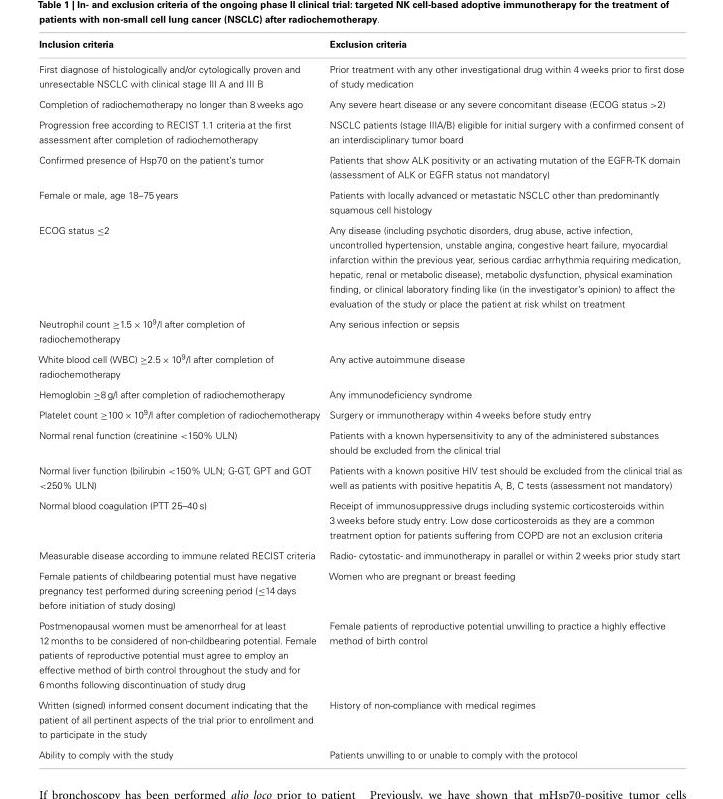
<table><thead><tr><td>Inclusion criteria</td><td>Exclusion criteria</td></tr></thead><tbody><tr><td>First diagnose of histologically and/or cytologically proven and unresectable NSCLC with clinical stage III A and III B</td><td>Prior treatment with any other investigational drug within 4 weeks prior to first dose of study medication</td></tr><tr><td>Completion of radiochemotherapy no longer than 8 weeks ago</td><td>Any severe heart disease or any severe concomitant disease (ECOG status &gt;2)</td></tr><tr><td>Progression free according to RECIST 1.1 criteria at the first assessment after completion of radiochemotherapy</td><td>NSCLC patients (stage IIIA/B) eligible for initial surgery with a confirmed consent of an interdisciplinary tumor board</td></tr><tr><td>Confirmed presence of Hsp70 on the patient’s tumor</td><td>Patients that show ALK positivity or an activating mutation of the EGFR-TK domain (assessment of ALK or EGFR status not mandatory)</td></tr><tr><td>Female or male, age 18–75 years</td><td>Patients with locally advanced or metastatic NSCLC other than predominantly squamous cell histology</td></tr><tr><td>ECOG status ≤2</td><td>Any disease (including psychotic disorders, drug abuse, active infection, uncontrolled hypertension, unstable angina, congestive heart failure, myocardial infarction within the previous year, serious cardiac arrhythmia requiring medication, hepatic, renal or metabolic disease), metabolic dysfunction, physical examination finding, or clinical laboratory finding like (in the investigator’s opinion) to affect the evaluation of the study or place the patient at risk whilst on treatment</td></tr><tr><td>Neutrophil count ≥1.5 × 10<sup>9</sup>/l after completion of radiochemotherapy</td><td>Any serious infection or sepsis</td></tr><tr><td>White blood cell (WBC) ≥2.5 × 10<sup>9</sup>/l after completion of radiochemotherapy</td><td>Any active autoimmune disease</td></tr><tr><td>Hemoglobin ≥8 g/l after completion of radiochemotherapy</td><td>Any immunodeficiency syndrome</td></tr><tr><td>Platelet count ≥100 × 10<sup>9</sup>/l after completion of radiochemotherapy</td><td>Surgery or immunotherapy within 4 weeks before study entry</td></tr><tr><td>Normal renal function (creatinine &lt;150% ULN)</td><td>Patients with a known hypersensitivity to any of the administered substances should be excluded from the clinical trial</td></tr><tr><td>Normal liver function (bilirubin &lt;150% ULN; G-GT, GPT and GOT &lt;250% ULN)</td><td>Patients with a known positive HIV test should be excluded from the clinical trial as well as patients with positive hepatitis A, B, C tests (assessment not mandatory)</td></tr><tr><td>Normal blood coagulation (PTT 25–40 s)</td><td>Receipt of immunosuppressive drugs including systemic corticosteroids within 3 weeks before study entry. Low dose corticosteroids as they are a common treatment option for patients suffering from COPD are not an exclusion criteria</td></tr><tr><td>Measurable disease according to immune related RECIST criteria</td><td>Radio- cytostatic- and immunotherapy in parallel or within 2 weeks prior study start</td></tr><tr><td>Female patients of childbearing potential must have negative pregnancy test performed during screening period (≤14 days before initiation of study dosing)</td><td>Women who are pregnant or breast feeding</td></tr><tr><td>Postmenopausal women must be amenorrheal for at least 12 months to be considered of non-childbearing potential. Female patients of reproductive potential must agree to employ an effective method of birth control throughout the study and for 6 months following discontinuation of study drug</td><td>Female patients of reproductive potential unwilling to practice a highly effective method of birth control</td></tr><tr><td>Written (signed) informed consent document indicating that the patient of all pertinent aspects of the trial prior to enrollment and to participate in the study</td><td>History of non-compliance with medical regimes</td></tr><tr><td>Ability to comply with the study</td><td>Patients unwilling to or unable to comply with the protocol</td></tr></tbody></table>